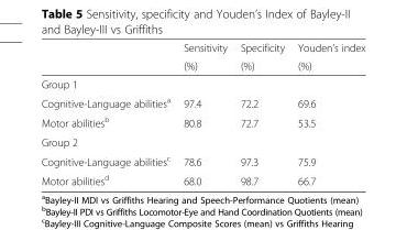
<table><thead><tr><td rowspan="2"></td><td rowspan="2">Sensitivity (%)</td><td rowspan="2">Specificity (%)</td><td rowspan="2">Youden’s index (%)</td></tr><tr></tr></thead><tbody><tr><td colspan="4">Group 1</td></tr><tr><td>Cognitive-Language abilities<sup>a</sup></td><td>97.4</td><td>72.2</td><td>69.6</td></tr><tr><td>Motor abilities<sup>b</sup></td><td>80.8</td><td>72.7</td><td>53.5</td></tr><tr><td colspan="4">Group 2</td></tr><tr><td>Cognitive-Language abilities<sup>c</sup></td><td>78.6</td><td>97.3</td><td>75.9</td></tr><tr><td>Motor abilities<sup>d</sup></td><td>68.0</td><td>98.7</td><td>66.7</td></tr></tbody></table>